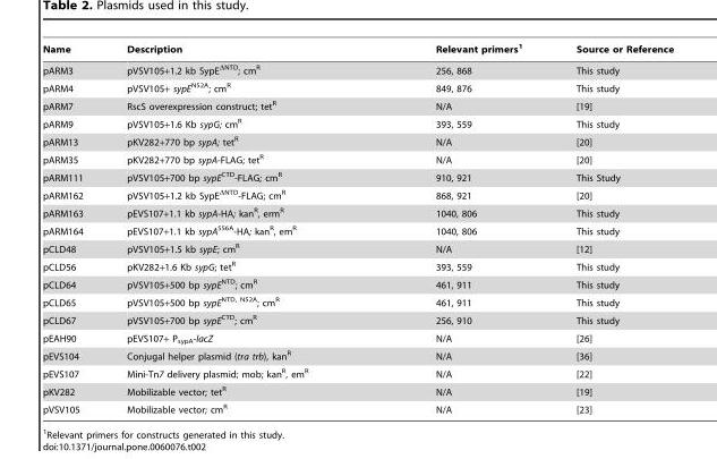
<table><thead><tr><td>Name</td><td>Description</td><td>Relevant primers<sup>1</sup></td><td>Source or Reference</td></tr></thead><tbody><tr><td>pARM3</td><td>pVSV105+1.2 kb SypE<sup>ΔNTD</sup>; cm<sup>R</sup></td><td>256, 868</td><td>This study</td></tr><tr><td>pARM4</td><td>pVSV105+ sypE<sup>N52A</sup>; cm<sup>R</sup></td><td>849, 876</td><td>This study</td></tr><tr><td>pARM7</td><td>RscS overexpression construct; tet<sup>R</sup></td><td>N/A</td><td>[19]</td></tr><tr><td>pARM9</td><td>pVSV105+1.6 Kb sypG; cm<sup>R</sup></td><td>393, 559</td><td>This study</td></tr><tr><td>pARM13</td><td>pKV282+770 bp sypA; tet<sup>R</sup></td><td>N/A</td><td>[20]</td></tr><tr><td>pARM35</td><td>pKV282+770 bp sypA-FLAG; tet<sup>R</sup></td><td>N/A</td><td>[20]</td></tr><tr><td>pARM111</td><td>pVSV105+700 bp sypE<sup>CTD</sup>-FLAG; cm<sup>R</sup></td><td>910, 921</td><td>This Study</td></tr><tr><td>pARM162</td><td>pVSV105+1.2 kb SypE<sup>ΔNTD</sup>-FLAG; cm<sup>R</sup></td><td>868, 921</td><td>[20]</td></tr><tr><td>pARM163</td><td>pEVS107+1.1 kb sypA-HA; kan<sup>R</sup>, erm<sup>R</sup></td><td>1040, 806</td><td>This study</td></tr><tr><td>pARM164</td><td>pEVS107+1.1 kb sypA<sup>S56A</sup>-HA; kan<sup>R</sup>, em<sup>R</sup></td><td>1040, 806</td><td>This study</td></tr><tr><td>pCLD48</td><td>pVSV105+1.5 kb sypE; cm<sup>R</sup></td><td>N/A</td><td>[12]</td></tr><tr><td>pCLD56</td><td>pKV282+1.6 Kb sypG; tet<sup>R</sup></td><td>393, 559</td><td>This study</td></tr><tr><td>pCLD64</td><td>pVSV105+500 bp sypE<sup>NTD</sup>; cm<sup>R</sup></td><td>461, 911</td><td>This study</td></tr><tr><td>pCLD65</td><td>pVSV105+500 bp sypE<sup>NTD, N52A</sup>; cm<sup>R</sup></td><td>461, 911</td><td>This study</td></tr><tr><td>pCLD67</td><td>pVSV105+700 bp sypE<sup>CTD</sup>; cm<sup>R</sup></td><td>256, 910</td><td>This study</td></tr><tr><td>pEAH90</td><td>pEVS107+ P<sub>sypA</sub>-lacZ</td><td>N/A</td><td>[26]</td></tr><tr><td>pEVS104</td><td>Conjugal helper plasmid (tra trb), kan<sup>R</sup></td><td>N/A</td><td>[36]</td></tr><tr><td>pEVS107</td><td>Mini-Tn7 delivery plasmid; mob; kan<sup>R</sup>, em<sup>R</sup></td><td>N/A</td><td>[22]</td></tr><tr><td>pKV282</td><td>Mobilizable vector; tet<sup>R</sup></td><td>N/A</td><td>[19]</td></tr><tr><td>pVSV105</td><td>Mobilizable vector; cm<sup>R</sup></td><td>N/A</td><td>[23]</td></tr></tbody></table>